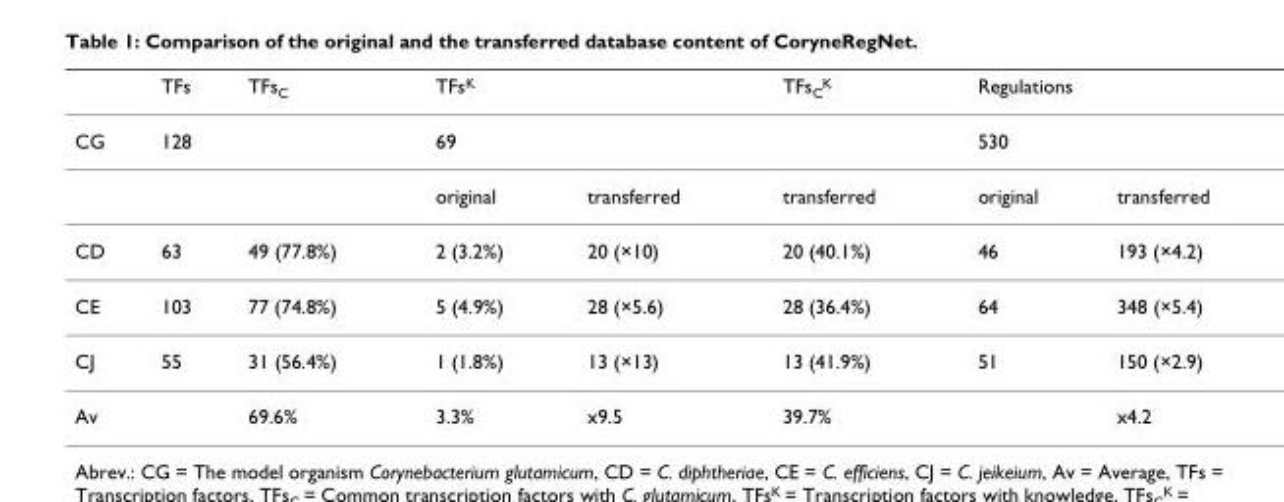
<table><thead><tr><td rowspan="2">CG</td><td rowspan="2">TFs 128</td><td rowspan="2">TFsC</td><td colspan="2">TFsK</td><td rowspan="2">TFsCK</td><td colspan="2">Regulations</td></tr><tr><td>69</td><td></td><td>530</td><td></td></tr></thead><tbody><tr><td></td><td></td><td></td><td>original</td><td>transferred</td><td>transferred</td><td>original</td><td>transferred</td></tr><tr><td>CD</td><td>63</td><td>49 (77.8%)</td><td>2 (3.2%)</td><td>20 (×10)</td><td>20 (40.1%)</td><td>46</td><td>193 (×4.2)</td></tr><tr><td>CE</td><td>103</td><td>77 (74.8%)</td><td>5 (4.9%)</td><td>28 (×5.6)</td><td>28 (36.4%)</td><td>64</td><td>348 (×5.4)</td></tr><tr><td>CJ</td><td>55</td><td>31 (56.4%)</td><td>1 (1.8%)</td><td>13 (×13)</td><td>13 (41.9%)</td><td>51</td><td>150 (×2.9)</td></tr><tr><td>Av</td><td></td><td>69.6%</td><td>3.3%</td><td>x9.5</td><td>39.7%</td><td></td><td>x4.2</td></tr></tbody></table>